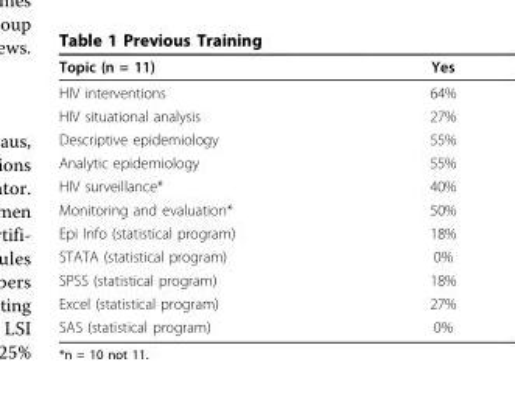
<table><thead><tr><td>Topic (n = 11)</td><td>Yes</td></tr></thead><tbody><tr><td>HIV interventions</td><td>64%</td></tr><tr><td>HIV situational analysis</td><td>27%</td></tr><tr><td>Descriptive epidemiology</td><td>55%</td></tr><tr><td>Analytic epidemiology</td><td>55%</td></tr><tr><td>HIV surveillance*</td><td>40%</td></tr><tr><td>Monitoring and evaluation*</td><td>50%</td></tr><tr><td>Epi Info (statistical program)</td><td>18%</td></tr><tr><td>STATA (statistical program)</td><td>0%</td></tr><tr><td>SPSS (statistical program)</td><td>18%</td></tr><tr><td>Excel (statistical program)</td><td>27%</td></tr><tr><td>SAS (statistical program)</td><td>0%</td></tr></tbody></table>